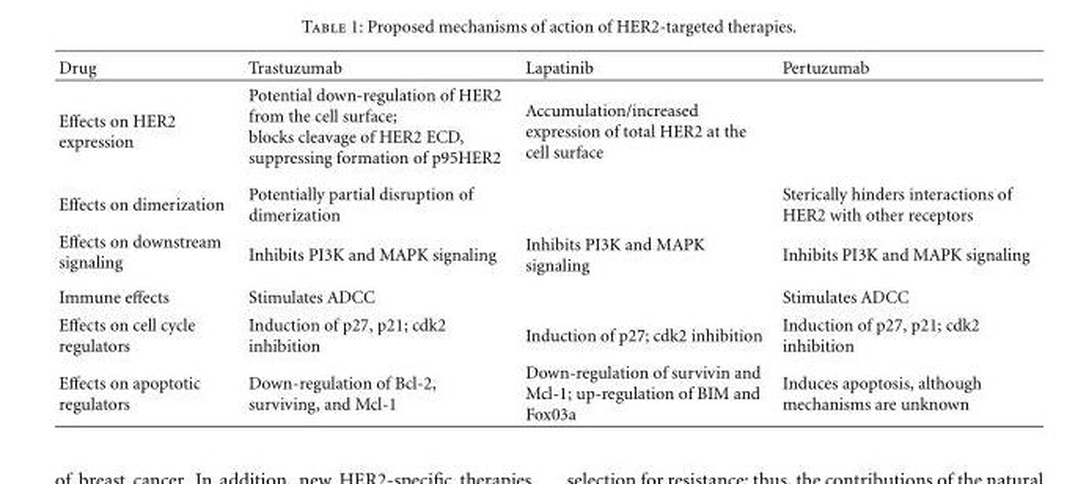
<table><thead><tr><td>Drug</td><td>Trastuzumab</td><td>Lapatinib</td><td>Pertuzumab</td></tr></thead><tbody><tr><td>Effects on HER2 expression</td><td>Potential down-regulation of HER2 from the cell surface; blocks cleavage of HER2 ECD, suppressing formation of p95HER2</td><td>Accumulation/increased expression of total HER2 at the cell surface</td><td></td></tr><tr><td>Effects on dimerization</td><td>Potentially partial disruption of dimerization</td><td></td><td>Sterically hinders interactions of HER2 with other receptors</td></tr><tr><td>Effects on downstream signaling</td><td>Inhibits PI3K and MAPK signaling</td><td>Inhibits PI3K and MAPK signaling</td><td>Inhibits PI3K and MAPK signaling</td></tr><tr><td>Immune effects</td><td>Stimulates ADCC</td><td></td><td>Stimulates ADCC</td></tr><tr><td>Effects on cell cycle regulators</td><td>Induction of p27, p21; cdk2 inhibition</td><td>Induction of p27; cdk2 inhibition</td><td>Induction of p27, p21; cdk2 inhibition</td></tr><tr><td>Effects on apoptotic regulators</td><td>Down-regulation of Bcl-2, surviving, and Mcl-1</td><td>Down-regulation of survivin and Mcl-1; up-regulation of BIM and Fox03a</td><td>Induces apoptosis, although mechanisms are unknown</td></tr></tbody></table>